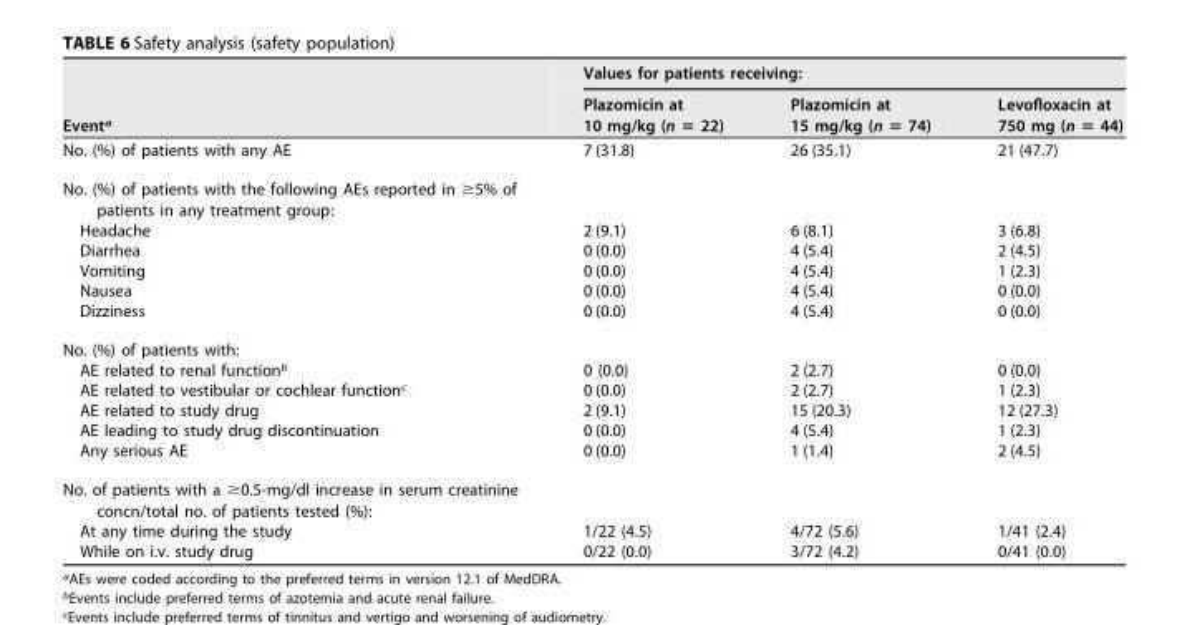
<table><thead><tr><td rowspan="2">Event<sup>a</sup></td><td colspan="3">Values for patients receiving:</td></tr><tr><td>Plazomicin at 10 mg/kg (n = 22)</td><td>Plazomicin at 15 mg/kg (n = 74)</td><td>Levofloxacin at 750 mg (n = 44)</td></tr></thead><tbody><tr><td>No. (%) of patients with any AE</td><td>7 (31.8)</td><td>26 (35.1)</td><td>21 (47.7)</td></tr><tr><td colspan="4">No. (%) of patients with the following AEs reported in ≥5% of patients in any treatment group:</td></tr><tr><td>Headache</td><td>2 (9.1)</td><td>6 (8.1)</td><td>3 (6.8)</td></tr><tr><td>Diarrhea</td><td>0 (0.0)</td><td>4 (5.4)</td><td>2 (4.5)</td></tr><tr><td>Vomiting</td><td>0 (0.0)</td><td>4 (5.4)</td><td>1 (2.3)</td></tr><tr><td>Nausea</td><td>0 (0.0)</td><td>4 (5.4)</td><td>0 (0.0)</td></tr><tr><td>Dizziness</td><td>0 (0.0)</td><td>4 (5.4)</td><td>0 (0.0)</td></tr><tr><td colspan="4">No. (%) of patients with:</td></tr><tr><td>AE related to renal function<sup>b</sup></td><td>0 (0.0)</td><td>2 (2.7)</td><td>0 (0.0)</td></tr><tr><td>AE related to vestibular or cochlear function<sup>c</sup></td><td>0 (0.0)</td><td>2 (2.7)</td><td>1 (2.3)</td></tr><tr><td>AE related to study drug</td><td>2 (9.1)</td><td>15 (20.3)</td><td>12 (27.3)</td></tr><tr><td>AE leading to study drug discontinuation</td><td>0 (0.0)</td><td>4 (5.4)</td><td>1 (2.3)</td></tr><tr><td>Any serious AE</td><td>0 (0.0)</td><td>1 (1.4)</td><td>2 (4.5)</td></tr><tr><td colspan="4">No. of patients with a ≥0.5-mg/dl increase in serum creatinine concn/total no. of patients tested (%):</td></tr><tr><td>At any time during the study</td><td>1/22 (4.5)</td><td>4/72 (5.6)</td><td>1/41 (2.4)</td></tr><tr><td>While on i.v. study drug</td><td>0/22 (0.0)</td><td>3/72 (4.2)</td><td>0/41 (0.0)</td></tr></tbody></table>